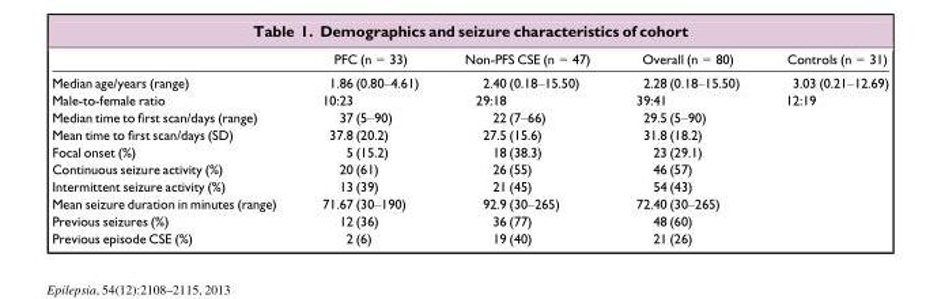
<table><thead><tr><td></td><td>PFC (n = 33)</td><td>Non-PFS CSE (n = 47)</td><td>Overall (n = 80)</td><td>Controls (n = 31)</td></tr></thead><tbody><tr><td>Median age/years (range)</td><td>1.86 (0.80–4.61)</td><td>2.40 (0.18–15.50)</td><td>2.28 (0.18–15.50)</td><td>3.03 (0.21–12.69)</td></tr><tr><td>Male-to-female ratio</td><td>10:23</td><td>29:18</td><td>39:41</td><td>12:19</td></tr><tr><td>Median time to first scan/days (range)</td><td>37 (5–90)</td><td>22 (7–66)</td><td>29.5 (5–90)</td><td></td></tr><tr><td>Mean time to first scan/days (SD)</td><td>37.8 (20.2)</td><td>27.5 (15.6)</td><td>31.8 (18.2)</td><td></td></tr><tr><td>Focal onset (%)</td><td>5 (15.2)</td><td>18 (38.3)</td><td>23 (29.1)</td><td></td></tr><tr><td>Continuous seizure activity (%)</td><td>20 (61)</td><td>26 (55)</td><td>46 (57)</td><td></td></tr><tr><td>Intermittent seizure activity (%)</td><td>13 (39)</td><td>21 (45)</td><td>54 (43)</td><td></td></tr><tr><td>Mean seizure duration in minutes (range)</td><td>71.67 (30–190)</td><td>92.9 (30–265)</td><td>72.40 (30–265)</td><td></td></tr><tr><td>Previous seizures (%)</td><td>12 (36)</td><td>36 (77)</td><td>48 (60)</td><td></td></tr><tr><td>Previous episode CSE (%)</td><td>2 (6)</td><td>19 (40)</td><td>21 (26)</td><td></td></tr></tbody></table>